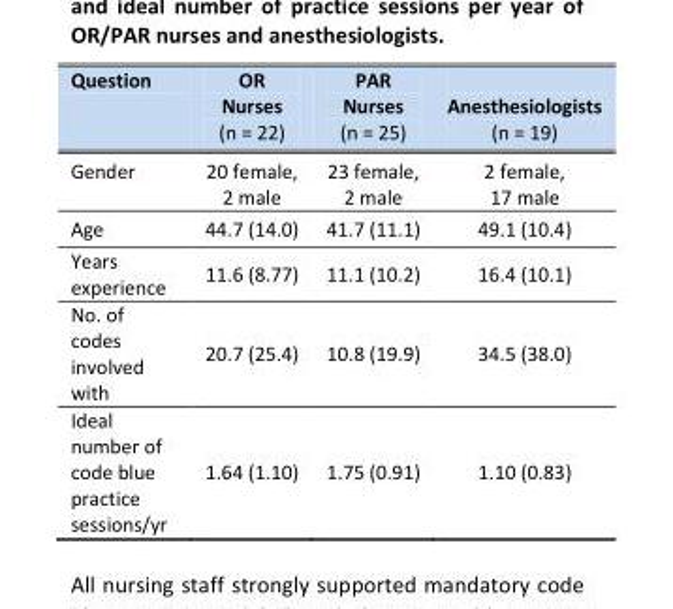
<table><thead><tr><td>Question</td><td>OR Nurses (n = 22)</td><td>PAR Nurses (n = 25)</td><td>Anesthesiologists (n = 19)</td></tr></thead><tbody><tr><td>Gender</td><td>20 female, 2 male</td><td>23 female, 2 male</td><td>2 female, 17 male</td></tr><tr><td>Age</td><td>44.7 (14.0)</td><td>41.7 (11.1)</td><td>49.1 (10.4)</td></tr><tr><td>Years experience</td><td>11.6 (8.77)</td><td>11.1 (10.2)</td><td>16.4 (10.1)</td></tr><tr><td>No. of codes involved with</td><td>20.7 (25.4)</td><td>10.8 (19.9)</td><td>34.5 (38.0)</td></tr><tr><td>Ideal number of code blue practice sessions/yr</td><td>1.64 (1.10)</td><td>1.75 (0.91)</td><td>1.10 (0.83)</td></tr></tbody></table>